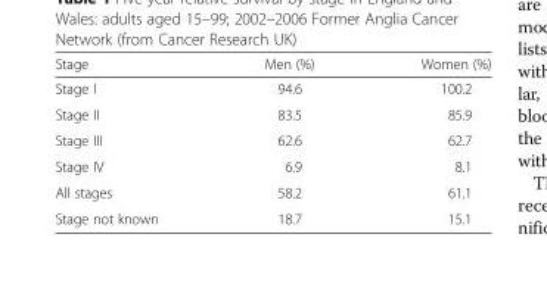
<table><thead><tr><td>Stage</td><td>Men (%)</td><td>Women (%)</td></tr></thead><tbody><tr><td>Stage I</td><td>94.6</td><td>100.2</td></tr><tr><td>Stage II</td><td>83.5</td><td>85.9</td></tr><tr><td>Stage III</td><td>62.6</td><td>62.7</td></tr><tr><td>Stage IV</td><td>6.9</td><td>8.1</td></tr><tr><td>All stages</td><td>58.2</td><td>61.1</td></tr><tr><td>Stage not known</td><td>18.7</td><td>15.1</td></tr></tbody></table>